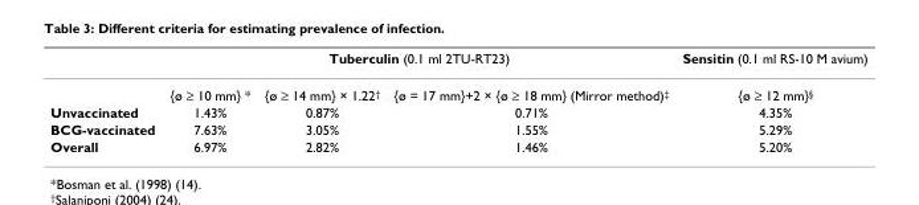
<table><thead><tr><td rowspan="2"></td><td colspan="3">Tuberculin (0.1 ml 2TU-RT23)</td><td rowspan="2">Sensitin (0.1 ml RS-10 M avium) {ø ≥ 12 mm}§</td></tr><tr><td>{ø ≥ 10 mm} *</td><td>{ø ≥ 14 mm} × 1.22†</td><td>{ø = 17 mm}+2 × {ø ≥ 18 mm} (Mirror method)‡</td></tr></thead><tbody><tr><td>Unvaccinated</td><td>1.43%</td><td>0.87%</td><td>0.71%</td><td>4.35%</td></tr><tr><td>BCG-vaccinated</td><td>7.63%</td><td>3.05%</td><td>1.55%</td><td>5.29%</td></tr><tr><td>Overall</td><td>6.97%</td><td>2.82%</td><td>1.46%</td><td>5.20%</td></tr></tbody></table>